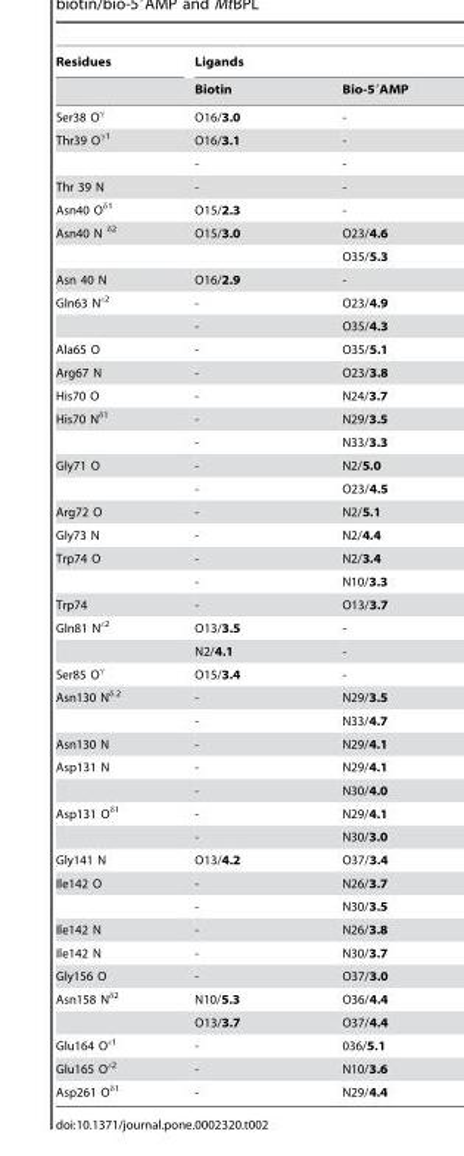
<table><thead><tr><td rowspan="2">Residues</td><td colspan="2">Ligands</td></tr><tr><td>Biotin</td><td>Bio-5′AMP</td></tr></thead><tbody><tr><td>Ser38 O<sup>γ</sup></td><td>O16/3.0</td><td>-</td></tr><tr><td rowspan="2">Thr39 O<sup>γ1</sup></td><td>O16/3.1</td><td>-</td></tr><tr><td>-</td><td>-</td></tr><tr><td>Thr 39 N</td><td>-</td><td>-</td></tr><tr><td>Asn40 O<sup>δ1</sup></td><td>O15/2.3</td><td>-</td></tr><tr><td rowspan="2">Asn40 N <sup>δ2</sup></td><td>O15/3.0</td><td>O23/4.6</td></tr><tr><td></td><td>O35/5.3</td></tr><tr><td>Asn 40 N</td><td>O16/2.9</td><td>-</td></tr><tr><td rowspan="2">Gln63 N<sup>ε2</sup></td><td>-</td><td>O23/4.9</td></tr><tr><td>-</td><td>O35/4.3</td></tr><tr><td>Ala65 O</td><td>-</td><td>O35/5.1</td></tr><tr><td>Arg67 N</td><td>-</td><td>O23/3.8</td></tr><tr><td>His70 O</td><td>-</td><td>N24/3.7</td></tr><tr><td rowspan="2">His70 N<sup>δ1</sup></td><td>-</td><td>N29/3.5</td></tr><tr><td>-</td><td>N33/3.3</td></tr><tr><td rowspan="2">Gly71 O</td><td>-</td><td>N2/5.0</td></tr><tr><td>-</td><td>O23/4.5</td></tr><tr><td>Arg72 O</td><td>-</td><td>N2/5.1</td></tr><tr><td>Gly73 N</td><td>-</td><td>N2/4.4</td></tr><tr><td rowspan="2">Trp74 O</td><td>-</td><td>N2/3.4</td></tr><tr><td>-</td><td>N10/3.3</td></tr><tr><td>Trp74</td><td>-</td><td>O13/3.7</td></tr><tr><td rowspan="2">Gln81 N<sup>ε2</sup></td><td>O13/3.5</td><td>-</td></tr><tr><td>N2/4.1</td><td>-</td></tr><tr><td>Ser85 O<sup>γ</sup></td><td>O15/3.4</td><td>-</td></tr><tr><td rowspan="2">Asn130 N<sup>δ.2</sup></td><td>-</td><td>N29/3.5</td></tr><tr><td>-</td><td>N33/4.7</td></tr><tr><td>Asn130 N</td><td>-</td><td>N29/4.1</td></tr><tr><td rowspan="2">Asp131 N</td><td>-</td><td>N29/4.1</td></tr><tr><td>-</td><td>N30/4.0</td></tr><tr><td rowspan="2">Asp131 O<sup>δ1</sup></td><td>-</td><td>N29/4.1</td></tr><tr><td>-</td><td>N30/3.0</td></tr><tr><td>Gly141 N</td><td>O13/4.2</td><td>O37/3.4</td></tr><tr><td rowspan="2">Ile142 O</td><td>-</td><td>N26/3.7</td></tr><tr><td>-</td><td>N30/3.5</td></tr><tr><td>Ile142 N</td><td>-</td><td>N26/3.8</td></tr><tr><td>Ile142 N</td><td>-</td><td>N30/3.7</td></tr><tr><td>Gly156 O</td><td>-</td><td>O37/3.0</td></tr><tr><td rowspan="2">Asn158 N<sup>δ2</sup></td><td>N10/5.3</td><td>O36/4.4</td></tr><tr><td>O13/3.7</td><td>O37/4.4</td></tr><tr><td>Glu164 O<sup>ε1</sup></td><td>-</td><td>036/5.1</td></tr><tr><td>Glu165 O<sup>ε2</sup></td><td>-</td><td>N10/3.6</td></tr><tr><td>Asp261 O<sup>δ1</sup></td><td>-</td><td>N29/4.4</td></tr></tbody></table>